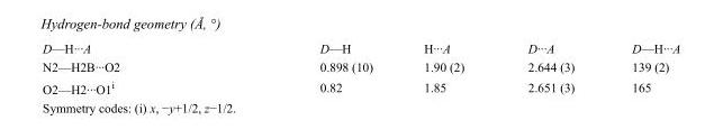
<table><tbody><tr><td>D—H···A</td><td>D—H</td><td>H···A</td><td>D···A</td><td>D—H···A</td></tr><tr><td>N2—H2B···O2</td><td>0.898 (10)</td><td>1.90 (2)</td><td>2.644 (3)</td><td>139 (2)</td></tr><tr><td>O2—H2···O1<sup>i</sup></td><td>0.82</td><td>1.85</td><td>2.651 (3)</td><td>165</td></tr></tbody></table>